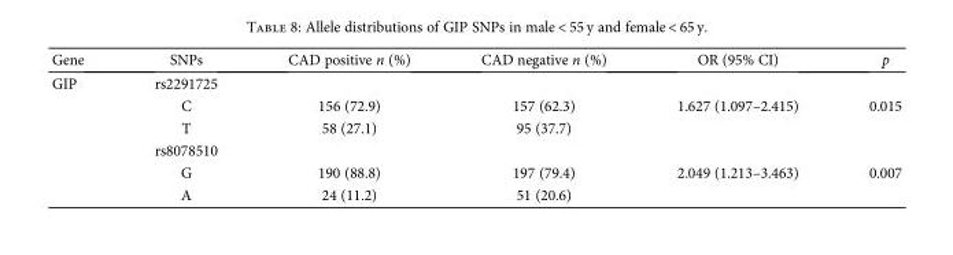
<table><thead><tr><td>Gene</td><td>SNPs</td><td>CAD positive n (%)</td><td>CAD negative n (%)</td><td>OR (95% CI)</td><td>p</td></tr></thead><tbody><tr><td rowspan="6">GIP</td><td>rs2291725</td><td></td><td></td><td></td><td></td></tr><tr><td>C</td><td>156 (72.9)</td><td>157 (62.3)</td><td>1.627 (1.097–2.415)</td><td>0.015</td></tr><tr><td>T</td><td>58 (27.1)</td><td>95 (37.7)</td><td></td><td></td></tr><tr><td>rs8078510</td><td></td><td></td><td></td><td></td></tr><tr><td>G</td><td>190 (88.8)</td><td>197 (79.4)</td><td>2.049 (1.213–3.463)</td><td>0.007</td></tr><tr><td>A</td><td>24 (11.2)</td><td>51 (20.6)</td><td></td><td></td></tr></tbody></table>